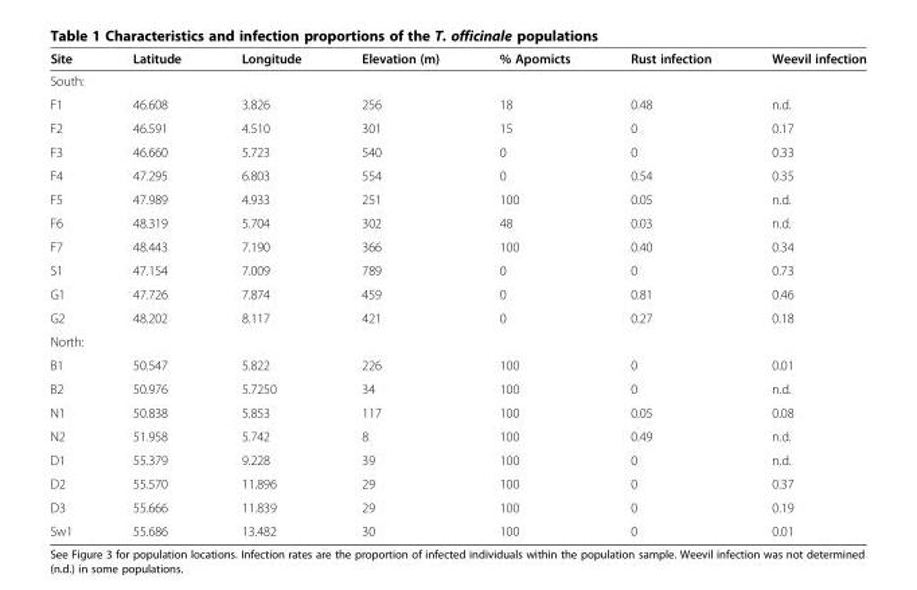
<table><thead><tr><td>Site</td><td>Latitude</td><td>Longitude</td><td>Elevation (m)</td><td>% Apomicts</td><td>Rust infection</td><td>Weevil infection</td></tr></thead><tbody><tr><td colspan="7">South:</td></tr><tr><td>F1</td><td>46.608</td><td>3.826</td><td>256</td><td>18</td><td>0.48</td><td>n.d.</td></tr><tr><td>F2</td><td>46.591</td><td>4.510</td><td>301</td><td>15</td><td>0</td><td>0.17</td></tr><tr><td>F3</td><td>46.660</td><td>5.723</td><td>540</td><td>0</td><td>0</td><td>0.33</td></tr><tr><td>F4</td><td>47.295</td><td>6.803</td><td>554</td><td>0</td><td>0.54</td><td>0.35</td></tr><tr><td>F5</td><td>47.989</td><td>4.933</td><td>251</td><td>100</td><td>0.05</td><td>n.d.</td></tr><tr><td>F6</td><td>48.319</td><td>5.704</td><td>302</td><td>48</td><td>0.03</td><td>n.d.</td></tr><tr><td>F7</td><td>48.443</td><td>7.190</td><td>366</td><td>100</td><td>0.40</td><td>0.34</td></tr><tr><td>S1</td><td>47.154</td><td>7.009</td><td>789</td><td>0</td><td>0</td><td>0.73</td></tr><tr><td>G1</td><td>47.726</td><td>7.874</td><td>459</td><td>0</td><td>0.81</td><td>0.46</td></tr><tr><td>G2</td><td>48.202</td><td>8.117</td><td>421</td><td>0</td><td>0.27</td><td>0.18</td></tr><tr><td colspan="7">North:</td></tr><tr><td>B1</td><td>50.547</td><td>5.822</td><td>226</td><td>100</td><td>0</td><td>0.01</td></tr><tr><td>B2</td><td>50.976</td><td>5.7250</td><td>34</td><td>100</td><td>0</td><td>n.d.</td></tr><tr><td>N1</td><td>50.838</td><td>5.853</td><td>117</td><td>100</td><td>0.05</td><td>0.08</td></tr><tr><td>N2</td><td>51.958</td><td>5.742</td><td>8</td><td>100</td><td>0.49</td><td>n.d.</td></tr><tr><td>D1</td><td>55.379</td><td>9.228</td><td>39</td><td>100</td><td>0</td><td>n.d.</td></tr><tr><td>D2</td><td>55.570</td><td>11.896</td><td>29</td><td>100</td><td>0</td><td>0.37</td></tr><tr><td>D3</td><td>55.666</td><td>11.839</td><td>29</td><td>100</td><td>0</td><td>0.19</td></tr><tr><td>Sw1</td><td>55.686</td><td>13.482</td><td>30</td><td>100</td><td>0</td><td>0.01</td></tr></tbody></table>